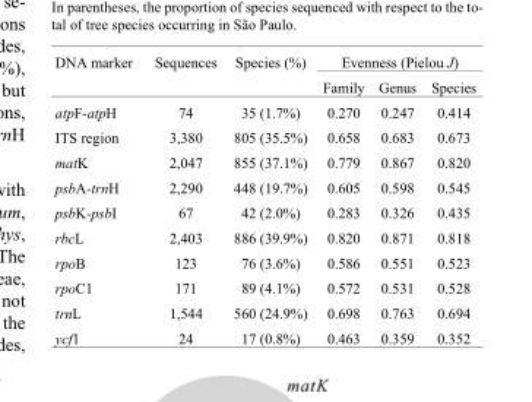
<table><thead><tr><td rowspan="2">DNA marker</td><td rowspan="2">Sequences</td><td rowspan="2">Species (%)</td><td colspan="3">Evenness (Pielou J)</td></tr><tr><td>Family</td><td>Genus</td><td>Species</td></tr></thead><tbody><tr><td>atpF-atpH</td><td>74</td><td>35 (1.7%)</td><td>0.270</td><td>0.247</td><td>0.414</td></tr><tr><td>ITS region</td><td>3,380</td><td>805 (35.5%)</td><td>0.658</td><td>0.683</td><td>0.673</td></tr><tr><td>matK</td><td>2,047</td><td>855 (37.1%)</td><td>0.779</td><td>0.867</td><td>0.820</td></tr><tr><td>psbA-trnH</td><td>2,290</td><td>448 (19.7%)</td><td>0.605</td><td>0.598</td><td>0.545</td></tr><tr><td>psbK-psbI</td><td>67</td><td>42 (2.0%)</td><td>0.283</td><td>0.326</td><td>0.435</td></tr><tr><td>rbcL</td><td>2,403</td><td>886 (39.9%)</td><td>0.820</td><td>0.871</td><td>0.818</td></tr><tr><td>rpoB</td><td>123</td><td>76 (3.6%)</td><td>0.586</td><td>0.551</td><td>0.523</td></tr><tr><td>rpoC1</td><td>171</td><td>89 (4.1%)</td><td>0.572</td><td>0.531</td><td>0.528</td></tr><tr><td>trnL</td><td>1,544</td><td>560 (24.9%)</td><td>0.698</td><td>0.763</td><td>0.694</td></tr><tr><td>ycf1</td><td>24</td><td>17 (0.8%)</td><td>0.463</td><td>0.359</td><td>0.352</td></tr></tbody></table>